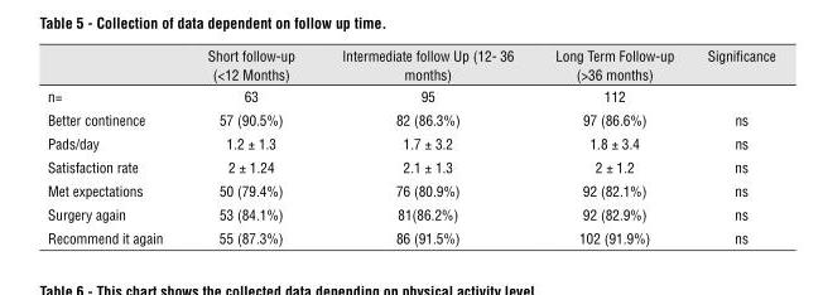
<table><thead><tr><td></td><td>Short follow-up (&lt;12 Months)</td><td>Intermediate follow Up (12- 36 months)</td><td>Long Term Follow-up (&gt;36 months)</td><td>Significance</td></tr></thead><tbody><tr><td>n=</td><td>63</td><td>95</td><td>112</td><td></td></tr><tr><td>Better continence</td><td>57 (90.5%)</td><td>82 (86.3%)</td><td>97 (86.6%)</td><td>ns</td></tr><tr><td>Pads/day</td><td>1.2 ± 1.3</td><td>1.7 ± 3.2</td><td>1.8 ± 3.4</td><td>ns</td></tr><tr><td>Satisfaction rate</td><td>2 ± 1.24</td><td>2.1 ± 1.3</td><td>2 ± 1.2</td><td>ns</td></tr><tr><td>Met expectations</td><td>50 (79.4%)</td><td>76 (80.9%)</td><td>92 (82.1%)</td><td>ns</td></tr><tr><td>Surgery again</td><td>53 (84.1%)</td><td>81(86.2%)</td><td>92 (82.9%)</td><td>ns</td></tr><tr><td>Recommend it again</td><td>55 (87.3%)</td><td>86 (91.5%)</td><td>102 (91.9%)</td><td>ns</td></tr></tbody></table>